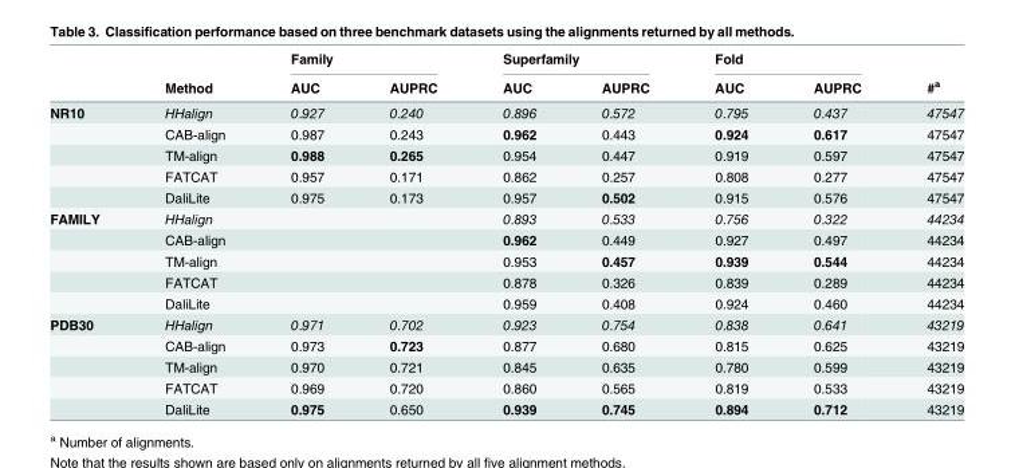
<table><thead><tr><td rowspan="2"></td><td rowspan="2">Method</td><td colspan="2">Family</td><td colspan="2">Superfamily</td><td colspan="2">Fold</td><td rowspan="2">#<sup>a</sup></td></tr><tr><td>AUC</td><td>AUPRC</td><td>AUC</td><td>AUPRC</td><td>AUC</td><td>AUPRC</td></tr></thead><tbody><tr><td rowspan="5">NR10</td><td>HHalign</td><td>0.927</td><td>0.240</td><td>0.896</td><td>0.572</td><td>0.795</td><td>0.437</td><td>47547</td></tr><tr><td>CAB-align</td><td>0.987</td><td>0.243</td><td>0.962</td><td>0.443</td><td>0.924</td><td>0.617</td><td>47547</td></tr><tr><td>TM-align</td><td>0.988</td><td>0.265</td><td>0.954</td><td>0.447</td><td>0.919</td><td>0.597</td><td>47547</td></tr><tr><td>FATCAT</td><td>0.957</td><td>0.171</td><td>0.862</td><td>0.257</td><td>0.808</td><td>0.277</td><td>47547</td></tr><tr><td>DaliLite</td><td>0.975</td><td>0.173</td><td>0.957</td><td>0.502</td><td>0.915</td><td>0.576</td><td>47547</td></tr><tr><td rowspan="5">FAMILY</td><td>HHalign</td><td></td><td></td><td>0.893</td><td>0.533</td><td>0.756</td><td>0.322</td><td>44234</td></tr><tr><td>CAB-align</td><td></td><td></td><td>0.962</td><td>0.449</td><td>0.927</td><td>0.497</td><td>44234</td></tr><tr><td>TM-align</td><td></td><td></td><td>0.953</td><td>0.457</td><td>0.939</td><td>0.544</td><td>44234</td></tr><tr><td>FATCAT</td><td></td><td></td><td>0.878</td><td>0.326</td><td>0.839</td><td>0.289</td><td>44234</td></tr><tr><td>DaliLite</td><td></td><td></td><td>0.959</td><td>0.408</td><td>0.924</td><td>0.460</td><td>44234</td></tr><tr><td rowspan="5">PDB30</td><td>HHalign</td><td>0.971</td><td>0.702</td><td>0.923</td><td>0.754</td><td>0.838</td><td>0.641</td><td>43219</td></tr><tr><td>CAB-align</td><td>0.973</td><td>0.723</td><td>0.877</td><td>0.680</td><td>0.815</td><td>0.625</td><td>43219</td></tr><tr><td>TM-align</td><td>0.970</td><td>0.721</td><td>0.845</td><td>0.635</td><td>0.780</td><td>0.599</td><td>43219</td></tr><tr><td>FATCAT</td><td>0.969</td><td>0.720</td><td>0.860</td><td>0.565</td><td>0.819</td><td>0.533</td><td>43219</td></tr><tr><td>DaliLite</td><td>0.975</td><td>0.650</td><td>0.939</td><td>0.745</td><td>0.894</td><td>0.712</td><td>43219</td></tr></tbody></table>